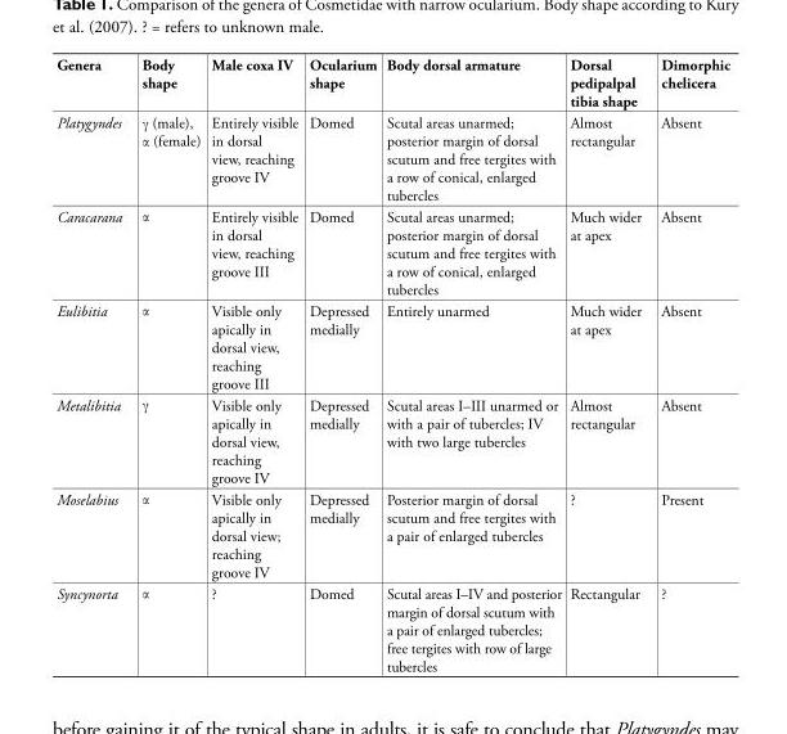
<table><thead><tr><td>Genera</td><td>Body shape</td><td>Male coxa IV</td><td>Ocularium shape</td><td>Body dorsal armature</td><td>Dorsal pedipalpal tibia shape</td><td>Dimorphic chelicera</td></tr></thead><tbody><tr><td>Platygyndes</td><td>γ (male), α (female)</td><td>Entirely visible in dorsal view, reaching groove IV</td><td>Domed</td><td>Scutal areas unarmed; posterior margin of dorsal scutum and free tergites with a row of conical, enlarged tubercles</td><td>Almost rectangular</td><td>Absent</td></tr><tr><td>Caracarana</td><td>α</td><td>Entirely visible in dorsal view, reaching groove III</td><td>Domed</td><td>Scutal areas unarmed; posterior margin of dorsal scutum and free tergites with a row of conical, enlarged tubercles</td><td>Much wider at apex</td><td>Absent</td></tr><tr><td>Eulibitia</td><td>α</td><td>Visible only apically in dorsal view, reaching groove III</td><td>Depressed medially</td><td>Entirely unarmed</td><td>Much wider at apex</td><td>Absent</td></tr><tr><td>Metalibitia</td><td>γ</td><td>Visible only apically in dorsal view, reaching groove IV</td><td>Depressed medially</td><td>Scutal areas I–III unarmed or with a pair of tubercles; IV with two large tubercles</td><td>Almost rectangular</td><td>Absent</td></tr><tr><td>Moselabius</td><td>α</td><td>Visible only apically in dorsal view; reaching groove IV</td><td>Depressed medially</td><td>Posterior margin of dorsal scutum and free tergites with a pair of enlarged tubercles</td><td>?</td><td>Present</td></tr><tr><td>Syncynorta</td><td>α</td><td>?</td><td>Domed</td><td>Scutal areas I–IV and posterior margin of dorsal scutum with a pair of enlarged tubercles; free tergites with row of large tubercles</td><td>Rectangular</td><td>?</td></tr></tbody></table>